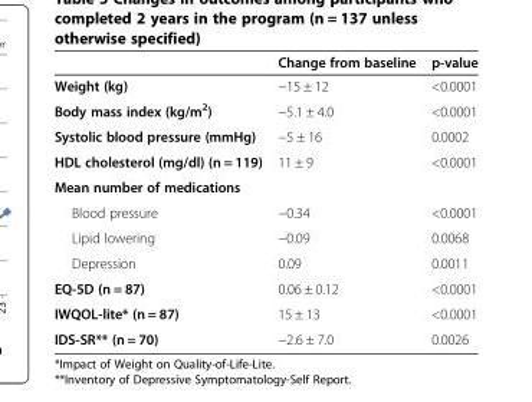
<table><thead><tr><td></td><td>Change from baseline</td><td>p-value</td></tr></thead><tbody><tr><td>Weight (kg)</td><td>−15 ± 12</td><td>&lt;0.0001</td></tr><tr><td>Body mass index (kg/m<sup>2</sup>)</td><td>−5.1 ± 4.0</td><td>&lt;0.0001</td></tr><tr><td>Systolic blood pressure (mmHg)</td><td>−5 ± 16</td><td>0.0002</td></tr><tr><td>HDL cholesterol (mg/dl) (n = 119)</td><td>11 ± 9</td><td>&lt;0.0001</td></tr><tr><td colspan="3">Mean number of medications</td></tr><tr><td>Blood pressure</td><td>−0.34</td><td>&lt;0.0001</td></tr><tr><td>Lipid lowering</td><td>−0.09</td><td>0.0068</td></tr><tr><td>Depression</td><td>0.09</td><td>0.0011</td></tr><tr><td>EQ-5D (n = 87)</td><td>0.06 ± 0.12</td><td>&lt;0.0001</td></tr><tr><td>IWQOL-lite* (n = 87)</td><td>15 ± 13</td><td>&lt;0.0001</td></tr><tr><td>IDS-SR** (n = 70)</td><td>−2.6 ± 7.0</td><td>0.0026</td></tr></tbody></table>